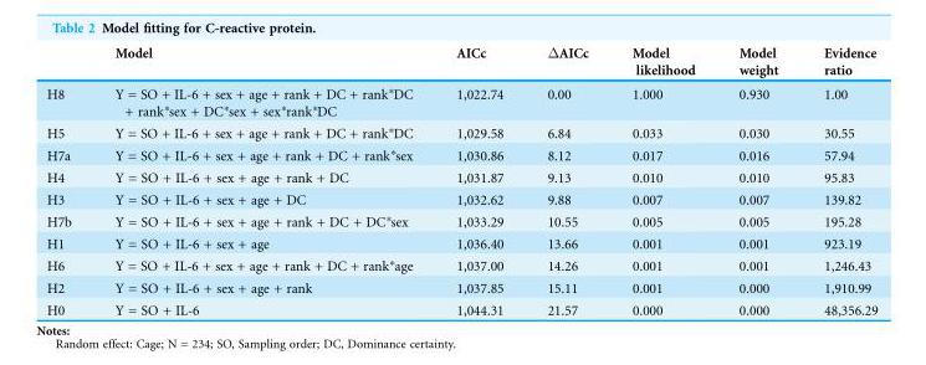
<table><thead><tr><td></td><td>Model</td><td>AICc</td><td>ΔAICc</td><td>Model likelihood</td><td>Model weight</td><td>Evidence ratio</td></tr></thead><tbody><tr><td>H8</td><td>Y = SO + IL-6 + sex + age + rank + DC + rank*DC + rank*sex + DC*sex + sex*rank*DC</td><td>1,022.74</td><td>0.00</td><td>1.000</td><td>0.930</td><td>1.00</td></tr><tr><td>H5</td><td>Y = SO + IL-6 + sex + age + rank + DC + rank*DC</td><td>1,029.58</td><td>6.84</td><td>0.033</td><td>0.030</td><td>30.55</td></tr><tr><td>H7a</td><td>Y = SO + IL-6 + sex + age + rank + DC + rank*sex</td><td>1,030.86</td><td>8.12</td><td>0.017</td><td>0.016</td><td>57.94</td></tr><tr><td>H4</td><td>Y = SO + IL-6 + sex + age + rank + DC</td><td>1,031.87</td><td>9.13</td><td>0.010</td><td>0.010</td><td>95.83</td></tr><tr><td>H3</td><td>Y = SO + IL-6 + sex + age + DC</td><td>1,032.62</td><td>9.88</td><td>0.007</td><td>0.007</td><td>139.82</td></tr><tr><td>H7b</td><td>Y = SO + IL-6 + sex + age + rank + DC + DC*sex</td><td>1,033.29</td><td>10.55</td><td>0.005</td><td>0.005</td><td>195.28</td></tr><tr><td>H1</td><td>Y = SO + IL-6 + sex + age</td><td>1,036.40</td><td>13.66</td><td>0.001</td><td>0.001</td><td>923.19</td></tr><tr><td>H6</td><td>Y = SO + IL-6 + sex + age + rank + DC + rank*age</td><td>1,037.00</td><td>14.26</td><td>0.001</td><td>0.001</td><td>1,246.43</td></tr><tr><td>H2</td><td>Y = SO + IL-6 + sex + age + rank</td><td>1,037.85</td><td>15.11</td><td>0.001</td><td>0.000</td><td>1,910.99</td></tr><tr><td>H0</td><td>Y = SO + IL-6</td><td>1,044.31</td><td>21.57</td><td>0.000</td><td>0.000</td><td>48,356.29</td></tr></tbody></table>